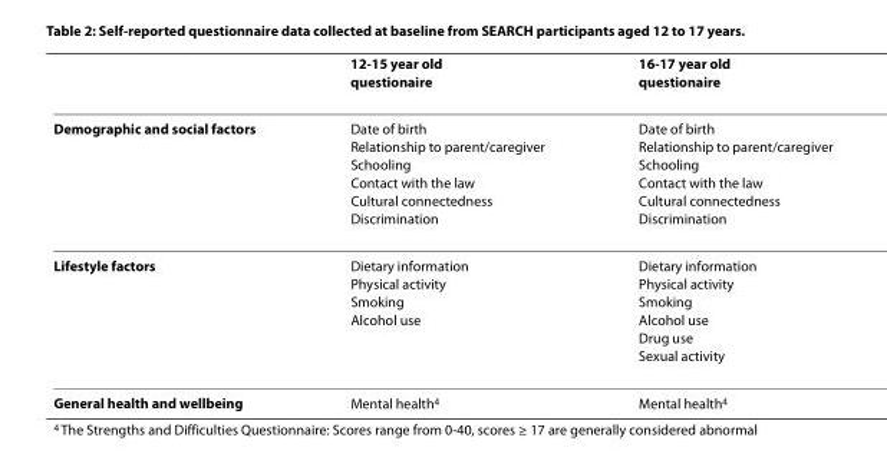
<table><thead><tr><td></td><td>12-15 year old questionaire</td><td>16-17 year old questionaire</td></tr></thead><tbody><tr><td>Demographic and social factors</td><td>Date of birth Relationship to parent/caregiver Schooling Contact with the law Cultural connectedness Discrimination</td><td>Date of birth Relationship to parent/caregiver Schooling Contact with the law Cultural connectedness Discrimination</td></tr><tr><td>Lifestyle factors</td><td>Dietary information Physical activity Smoking Alcohol use</td><td>Dietary information Physical activity Smoking Alcohol use Drug use Sexual activity</td></tr><tr><td>General health and wellbeing</td><td>Mental health<sup>4</sup></td><td>Mental health<sup>4</sup></td></tr></tbody></table>